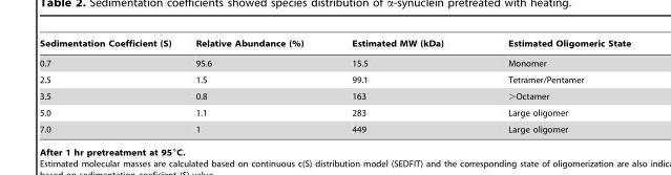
<table><thead><tr><td>Sedimentation Coefficient (S)</td><td>Relative Abundance (%)</td><td>Estimated MW (kDa)</td><td>Estimated Oligomeric State</td></tr></thead><tbody><tr><td>0.7</td><td>95.6</td><td>15.5</td><td>Monomer</td></tr><tr><td>2.5</td><td>1.5</td><td>99.1</td><td>Tetramer/Pentamer</td></tr><tr><td>3.5</td><td>0.8</td><td>163</td><td>&gt;Octamer</td></tr><tr><td>5.0</td><td>1.1</td><td>283</td><td>Large oligomer</td></tr><tr><td>7.0</td><td>1</td><td>449</td><td>Large oligomer</td></tr></tbody></table>